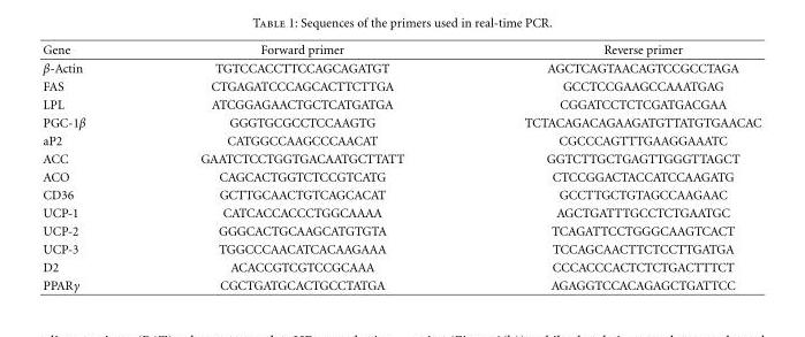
<table><thead><tr><td>Gene</td><td>Forward primer</td><td>Reverse primer</td></tr></thead><tbody><tr><td>β-Actin</td><td>TGTCCACCTTCCAGCAGATGT</td><td>AGCTCAGTAACAGTCCGCCTAGA</td></tr><tr><td>FAS</td><td>CTGAGATCCCAGCACTTCTTGA</td><td>GCCTCCGAAGCCAAATGAG</td></tr><tr><td>LPL</td><td>ATCGGAGAACTGCTCATGATGA</td><td>CGGATCCTCTCGATGACGAA</td></tr><tr><td>PGC-1β</td><td>GGGTGCGCCTCCAAGTG</td><td>TCTACAGACAGAAGATGTTATGTGAACAC</td></tr><tr><td>aP2</td><td>CATGGCCAAGCCCAACAT</td><td>CGCCCAGTTTGAAGGAAATC</td></tr><tr><td>ACC</td><td>GAATCTCCTGGTGACAATGCTTATT</td><td>GGTCTTGCTGAGTTGGGTTAGCT</td></tr><tr><td>ACO</td><td>CAGCACTGGTCTCCGTCATG</td><td>CTCCGGACTACCATCCAAGATG</td></tr><tr><td>CD36</td><td>GCTTGCAACTGTCAGCACAT</td><td>GCCTTGCTGTAGCCAAGAAC</td></tr><tr><td>UCP-1</td><td>CATCACCACCCTGGCAAAA</td><td>AGCTGATTTGCCTCTGAATGC</td></tr><tr><td>UCP-2</td><td>GGGCACTGCAAGCATGTGTA</td><td>TCAGATTCCTGGGCAAGTCACT</td></tr><tr><td>UCP-3</td><td>TGGCCCAACATCACAAGAAA</td><td>TCCAGCAACTTCTCCTTGATGA</td></tr><tr><td>D2</td><td>ACACCGTCGTCCGCAAA</td><td>CCCACCCACTCTCTGACTTTCT</td></tr><tr><td>PPARγ</td><td>CGCTGATGCACTGCCTATGA</td><td>AGAGGTCCACAGAGCTGATTCC</td></tr></tbody></table>